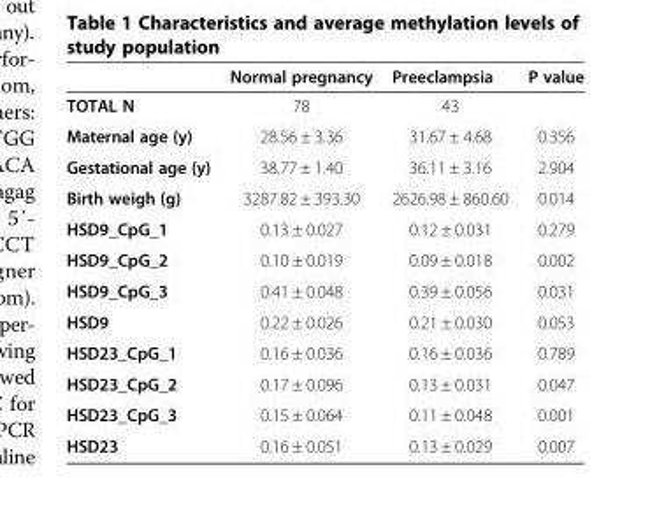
<table><thead><tr><td></td><td>Normal pregnancy</td><td>Preeclampsia</td><td>P value</td></tr></thead><tbody><tr><td>TOTAL N</td><td>78</td><td>43</td><td></td></tr><tr><td>Maternal age (y)</td><td>28.56 ± 3.36</td><td>31.67 ± 4.68</td><td>0.356</td></tr><tr><td>Gestational age (y)</td><td>38.77 ± 1.40</td><td>36.11 ± 3.16</td><td>2.904</td></tr><tr><td>Birth weigh (g)</td><td>3287.82 ± 393.30</td><td>2626.98 ± 860.60</td><td>0.014</td></tr><tr><td>HSD9_CpG_1</td><td>0.13 ± 0.027</td><td>0.12 ± 0.031</td><td>0.279</td></tr><tr><td>HSD9_CpG_2</td><td>0.10 ± 0.019</td><td>0.09 ± 0.018</td><td>0.002</td></tr><tr><td>HSD9_CpG_3</td><td>0.41 ± 0.048</td><td>0.39 ± 0.056</td><td>0.031</td></tr><tr><td>HSD9</td><td>0.22 ± 0.026</td><td>0.21 ± 0.030</td><td>0.053</td></tr><tr><td>HSD23_CpG_1</td><td>0.16 ± 0.036</td><td>0.16 ± 0.036</td><td>0.789</td></tr><tr><td>HSD23_CpG_2</td><td>0.17 ± 0.096</td><td>0.13 ± 0.031</td><td>0.047</td></tr><tr><td>HSD23_CpG_3</td><td>0.15 ± 0.064</td><td>0.11 ± 0.048</td><td>0.001</td></tr><tr><td>HSD23</td><td>0.16 ± 0.051</td><td>0.13 ± 0.029</td><td>0.007</td></tr></tbody></table>